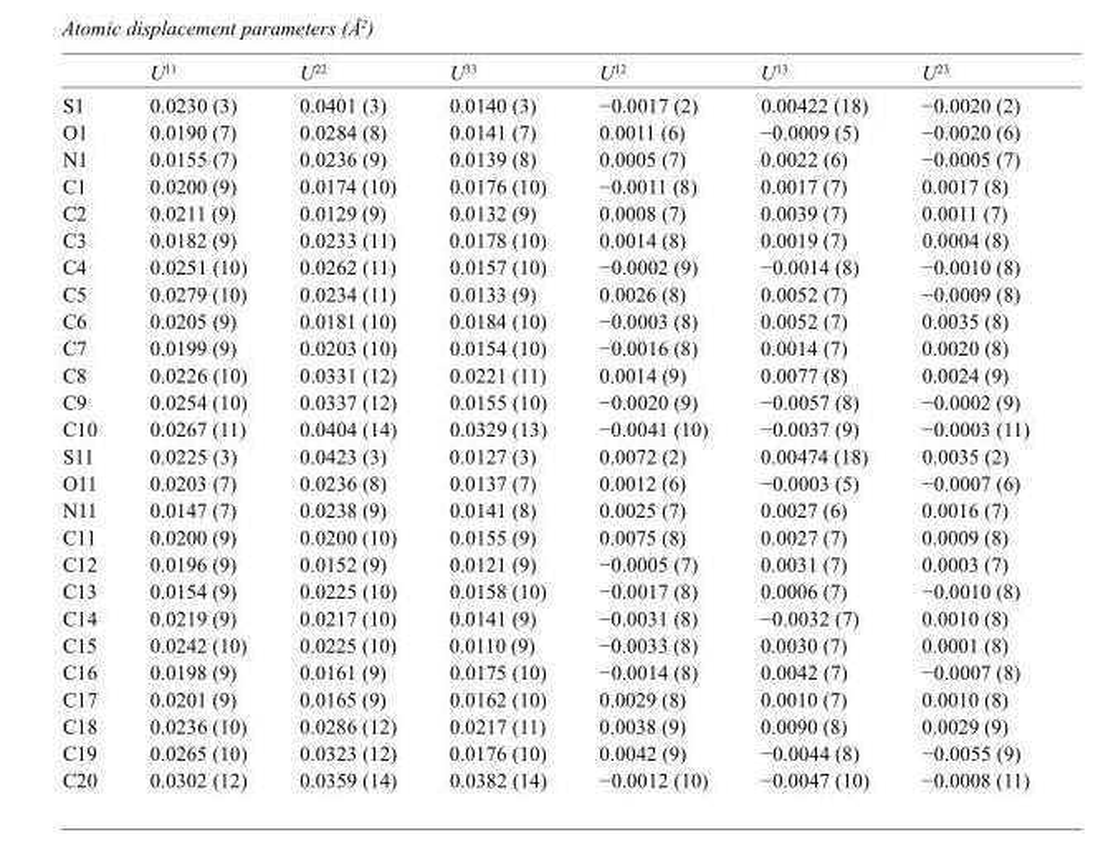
<table><thead><tr><td></td><td>U<sup>11</sup></td><td>U<sup>22</sup></td><td>U<sup>33</sup></td><td>U<sup>12</sup></td><td>U<sup>13</sup></td><td>U<sup>23</sup></td></tr></thead><tbody><tr><td>S1</td><td>0.0230 (3)</td><td>0.0401 (3)</td><td>0.0140 (3)</td><td>−0.0017 (2)</td><td>0.00422 (18)</td><td>−0.0020 (2)</td></tr><tr><td>O1</td><td>0.0190 (7)</td><td>0.0284 (8)</td><td>0.0141 (7)</td><td>0.0011 (6)</td><td>−0.0009 (5)</td><td>−0.0020 (6)</td></tr><tr><td>N1</td><td>0.0155 (7)</td><td>0.0236 (9)</td><td>0.0139 (8)</td><td>0.0005 (7)</td><td>0.0022 (6)</td><td>−0.0005 (7)</td></tr><tr><td>C1</td><td>0.0200 (9)</td><td>0.0174 (10)</td><td>0.0176 (10)</td><td>−0.0011 (8)</td><td>0.0017 (7)</td><td>0.0017 (8)</td></tr><tr><td>C2</td><td>0.0211 (9)</td><td>0.0129 (9)</td><td>0.0132 (9)</td><td>0.0008 (7)</td><td>0.0039 (7)</td><td>0.0011 (7)</td></tr><tr><td>C3</td><td>0.0182 (9)</td><td>0.0233 (11)</td><td>0.0178 (10)</td><td>0.0014 (8)</td><td>0.0019 (7)</td><td>0.0004 (8)</td></tr><tr><td>C4</td><td>0.0251 (10)</td><td>0.0262 (11)</td><td>0.0157 (10)</td><td>−0.0002 (9)</td><td>−0.0014 (8)</td><td>−0.0010 (8)</td></tr><tr><td>C5</td><td>0.0279 (10)</td><td>0.0234 (11)</td><td>0.0133 (9)</td><td>0.0026 (8)</td><td>0.0052 (7)</td><td>−0.0009 (8)</td></tr><tr><td>C6</td><td>0.0205 (9)</td><td>0.0181 (10)</td><td>0.0184 (10)</td><td>−0.0003 (8)</td><td>0.0052 (7)</td><td>0.0035 (8)</td></tr><tr><td>C7</td><td>0.0199 (9)</td><td>0.0203 (10)</td><td>0.0154 (10)</td><td>−0.0016 (8)</td><td>0.0014 (7)</td><td>0.0020 (8)</td></tr><tr><td>C8</td><td>0.0226 (10)</td><td>0.0331 (12)</td><td>0.0221 (11)</td><td>0.0014 (9)</td><td>0.0077 (8)</td><td>0.0024 (9)</td></tr><tr><td>C9</td><td>0.0254 (10)</td><td>0.0337 (12)</td><td>0.0155 (10)</td><td>−0.0020 (9)</td><td>−0.0057 (8)</td><td>−0.0002 (9)</td></tr><tr><td>C10</td><td>0.0267 (11)</td><td>0.0404 (14)</td><td>0.0329 (13)</td><td>−0.0041 (10)</td><td>−0.0037 (9)</td><td>−0.0003 (11)</td></tr><tr><td>S11</td><td>0.0225 (3)</td><td>0.0423 (3)</td><td>0.0127 (3)</td><td>0.0072 (2)</td><td>0.00474 (18)</td><td>0.0035 (2)</td></tr><tr><td>O11</td><td>0.0203 (7)</td><td>0.0236 (8)</td><td>0.0137 (7)</td><td>0.0012 (6)</td><td>−0.0003 (5)</td><td>−0.0007 (6)</td></tr><tr><td>N11</td><td>0.0147 (7)</td><td>0.0238 (9)</td><td>0.0141 (8)</td><td>0.0025 (7)</td><td>0.0027 (6)</td><td>0.0016 (7)</td></tr><tr><td>C11</td><td>0.0200 (9)</td><td>0.0200 (10)</td><td>0.0155 (9)</td><td>0.0075 (8)</td><td>0.0027 (7)</td><td>0.0009 (8)</td></tr><tr><td>C12</td><td>0.0196 (9)</td><td>0.0152 (9)</td><td>0.0121 (9)</td><td>−0.0005 (7)</td><td>0.0031 (7)</td><td>0.0003 (7)</td></tr><tr><td>C13</td><td>0.0154 (9)</td><td>0.0225 (10)</td><td>0.0158 (10)</td><td>−0.0017 (8)</td><td>0.0006 (7)</td><td>−0.0010 (8)</td></tr><tr><td>C14</td><td>0.0219 (9)</td><td>0.0217 (10)</td><td>0.0141 (9)</td><td>−0.0031 (8)</td><td>−0.0032 (7)</td><td>0.0010 (8)</td></tr><tr><td>C15</td><td>0.0242 (10)</td><td>0.0225 (10)</td><td>0.0110 (9)</td><td>−0.0033 (8)</td><td>0.0030 (7)</td><td>0.0001 (8)</td></tr><tr><td>C16</td><td>0.0198 (9)</td><td>0.0161 (9)</td><td>0.0175 (10)</td><td>−0.0014 (8)</td><td>0.0042 (7)</td><td>−0.0007 (8)</td></tr><tr><td>C17</td><td>0.0201 (9)</td><td>0.0165 (9)</td><td>0.0162 (10)</td><td>0.0029 (8)</td><td>0.0010 (7)</td><td>0.0010 (8)</td></tr><tr><td>C18</td><td>0.0236 (10)</td><td>0.0286 (12)</td><td>0.0217 (11)</td><td>0.0038 (9)</td><td>0.0090 (8)</td><td>0.0029 (9)</td></tr><tr><td>C19</td><td>0.0265 (10)</td><td>0.0323 (12)</td><td>0.0176 (10)</td><td>0.0042 (9)</td><td>−0.0044 (8)</td><td>−0.0055 (9)</td></tr><tr><td>C20</td><td>0.0302 (12)</td><td>0.0359 (14)</td><td>0.0382 (14)</td><td>−0.0012 (10)</td><td>−0.0047 (10)</td><td>−0.0008 (11)</td></tr></tbody></table>